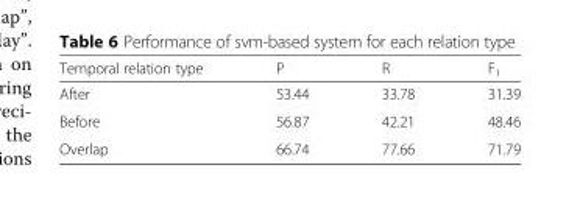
<table><thead><tr><td>Temporal relation type</td><td>P</td><td>R</td><td>F<sub>1</sub></td></tr></thead><tbody><tr><td>After</td><td>53.44</td><td>33.78</td><td>31.39</td></tr><tr><td>Before</td><td>56.87</td><td>42.21</td><td>48.46</td></tr><tr><td>Overlap</td><td>66.74</td><td>77.66</td><td>71.79</td></tr></tbody></table>